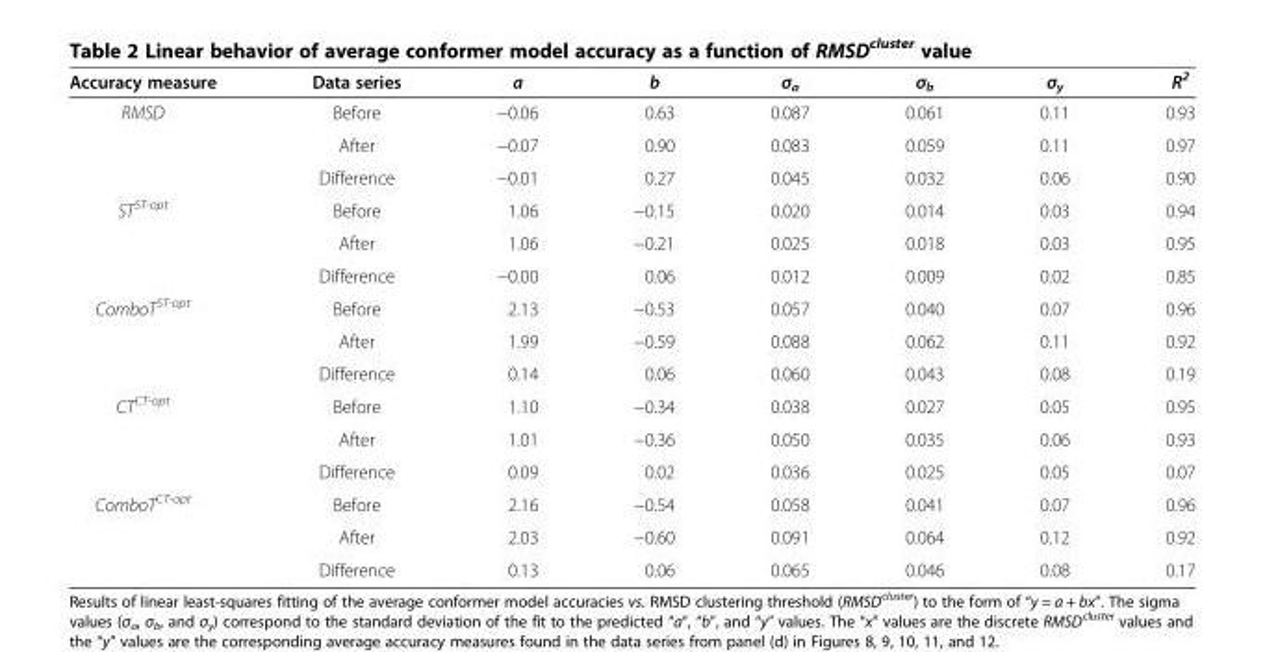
<table><thead><tr><td>Accuracy measure</td><td>Data series</td><td>a</td><td>b</td><td>σ<sub>a</sub></td><td>σ<sub>b</sub></td><td>σ<sub>y</sub></td><td>R<sup>2</sup></td></tr></thead><tbody><tr><td rowspan="3">RMSD</td><td>Before</td><td>−0.06</td><td>0.63</td><td>0.087</td><td>0.061</td><td>0.11</td><td>0.93</td></tr><tr><td>After</td><td>−0.07</td><td>0.90</td><td>0.083</td><td>0.059</td><td>0.11</td><td>0.97</td></tr><tr><td>Difference</td><td>−0.01</td><td>0.27</td><td>0.045</td><td>0.032</td><td>0.06</td><td>0.90</td></tr><tr><td rowspan="3">ST<sup>ST-opt</sup></td><td>Before</td><td>1.06</td><td>−0.15</td><td>0.020</td><td>0.014</td><td>0.03</td><td>0.94</td></tr><tr><td>After</td><td>1.06</td><td>−0.21</td><td>0.025</td><td>0.018</td><td>0.03</td><td>0.95</td></tr><tr><td>Difference</td><td>−0.00</td><td>0.06</td><td>0.012</td><td>0.009</td><td>0.02</td><td>0.85</td></tr><tr><td rowspan="3">ComboT<sup>ST-opt</sup></td><td>Before</td><td>2.13</td><td>−0.53</td><td>0.057</td><td>0.040</td><td>0.07</td><td>0.96</td></tr><tr><td>After</td><td>1.99</td><td>−0.59</td><td>0.088</td><td>0.062</td><td>0.11</td><td>0.92</td></tr><tr><td>Difference</td><td>0.14</td><td>0.06</td><td>0.060</td><td>0.043</td><td>0.08</td><td>0.19</td></tr><tr><td rowspan="3">CT<sup>CT-opt</sup></td><td>Before</td><td>1.10</td><td>−0.34</td><td>0.038</td><td>0.027</td><td>0.05</td><td>0.95</td></tr><tr><td>After</td><td>1.01</td><td>−0.36</td><td>0.050</td><td>0.035</td><td>0.06</td><td>0.93</td></tr><tr><td>Difference</td><td>0.09</td><td>0.02</td><td>0.036</td><td>0.025</td><td>0.05</td><td>0.07</td></tr><tr><td rowspan="3">ComboT<sup>CT-opt</sup></td><td>Before</td><td>2.16</td><td>−0.54</td><td>0.058</td><td>0.041</td><td>0.07</td><td>0.96</td></tr><tr><td>After</td><td>2.03</td><td>−0.60</td><td>0.091</td><td>0.064</td><td>0.12</td><td>0.92</td></tr><tr><td>Difference</td><td>0.13</td><td>0.06</td><td>0.065</td><td>0.046</td><td>0.08</td><td>0.17</td></tr></tbody></table>